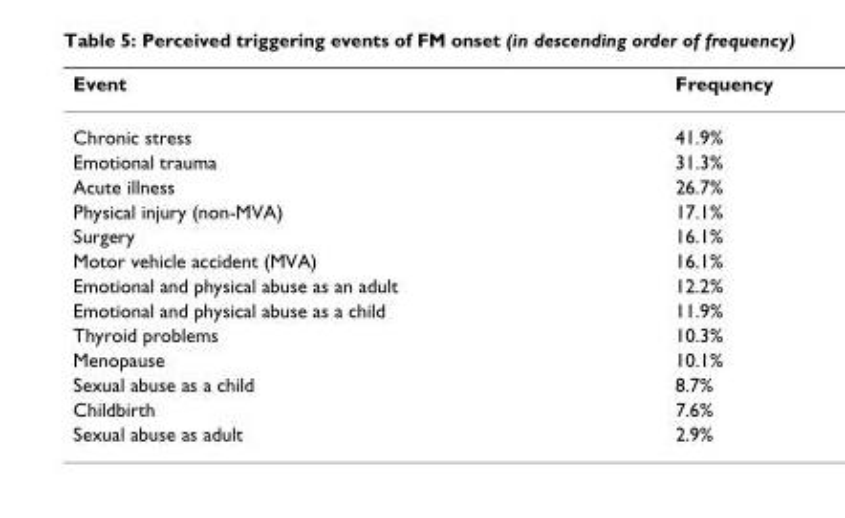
<table><thead><tr><td>Event</td><td>Frequency</td></tr></thead><tbody><tr><td>Chronic stress</td><td>41.9%</td></tr><tr><td>Emotional trauma</td><td>31.3%</td></tr><tr><td>Acute illness</td><td>26.7%</td></tr><tr><td>Physical injury (non-MVA)</td><td>17.1%</td></tr><tr><td>Surgery</td><td>16.1%</td></tr><tr><td>Motor vehicle accident (MVA)</td><td>16.1%</td></tr><tr><td>Emotional and physical abuse as an adult</td><td>12.2%</td></tr><tr><td>Emotional and physical abuse as a child</td><td>11.9%</td></tr><tr><td>Thyroid problems</td><td>10.3%</td></tr><tr><td>Menopause</td><td>10.1%</td></tr><tr><td>Sexual abuse as a child</td><td>8.7%</td></tr><tr><td>Childbirth</td><td>7.6%</td></tr><tr><td>Sexual abuse as adult</td><td>2.9%</td></tr></tbody></table>